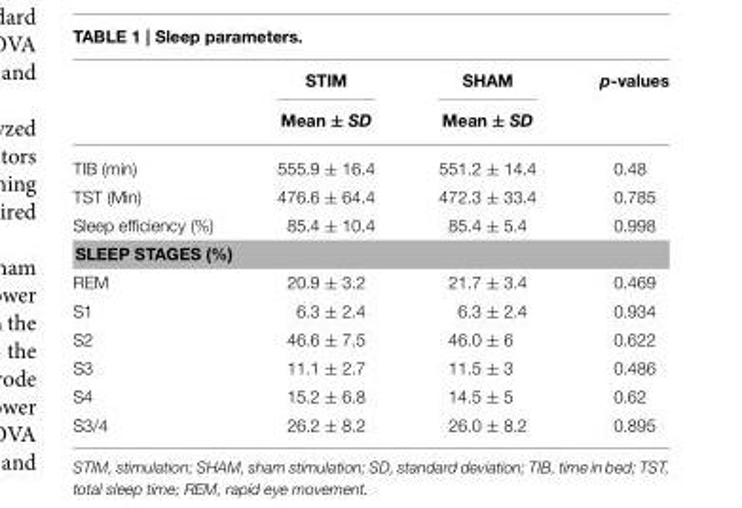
<table><thead><tr><td rowspan="2"></td><td rowspan="2">STIM Mean ± SD</td><td rowspan="2">SHAM Mean ± SD</td><td rowspan="2">p-values</td></tr><tr></tr></thead><tbody><tr><td>TIB (min)</td><td>555.9 ± 16.4</td><td>551.2 ± 14.4</td><td>0.48</td></tr><tr><td>TST (Min)</td><td>476.6 ± 64.4</td><td>472.3 ± 33.4</td><td>0.785</td></tr><tr><td>Sleep efficiency (%)</td><td>85.4 ± 10.4</td><td>85.4 ± 5.4</td><td>0.998</td></tr><tr><td colspan="4">SLEEP STAGES (%)</td></tr><tr><td>REM</td><td>20.9 ± 3.2</td><td>21.7 ± 3.4</td><td>0.469</td></tr><tr><td>S1</td><td>6.3 ± 2.4</td><td>6.3 ± 2.4</td><td>0.934</td></tr><tr><td>S2</td><td>46.6 ± 7.5</td><td>46.0 ± 6</td><td>0.622</td></tr><tr><td>S3</td><td>11.1 ± 2.7</td><td>11.5 ± 3</td><td>0.486</td></tr><tr><td>S4</td><td>15.2 ± 6.8</td><td>14.5 ± 5</td><td>0.62</td></tr><tr><td>S3/4</td><td>26.2 ± 8.2</td><td>26.0 ± 8.2</td><td>0.895</td></tr></tbody></table>